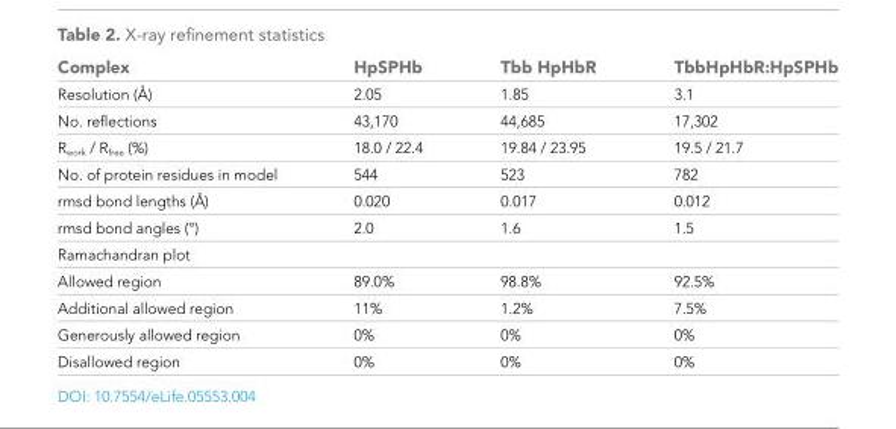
<table><thead><tr><td>Complex</td><td>HpSPHb</td><td>Tbb HpHbR</td><td>TbbHpHbR:HpSPHb</td></tr></thead><tbody><tr><td>Resolution (Å)</td><td>2.05</td><td>1.85</td><td>3.1</td></tr><tr><td>No. reflections</td><td>43,170</td><td>44,685</td><td>17,302</td></tr><tr><td>R<sub>work</sub> / R<sub>free</sub> (%)</td><td>18.0 / 22.4</td><td>19.84 / 23.95</td><td>19.5 / 21.7</td></tr><tr><td>No. of protein residues in model</td><td>544</td><td>523</td><td>782</td></tr><tr><td>rmsd bond lengths (Å)</td><td>0.020</td><td>0.017</td><td>0.012</td></tr><tr><td>rmsd bond angles (°)</td><td>2.0</td><td>1.6</td><td>1.5</td></tr><tr><td colspan="4">Ramachandran plot</td></tr><tr><td>Allowed region</td><td>89.0%</td><td>98.8%</td><td>92.5%</td></tr><tr><td>Additional allowed region</td><td>11%</td><td>1.2%</td><td>7.5%</td></tr><tr><td>Generously allowed region</td><td>0%</td><td>0%</td><td>0%</td></tr><tr><td>Disallowed region</td><td>0%</td><td>0%</td><td>0%</td></tr></tbody></table>